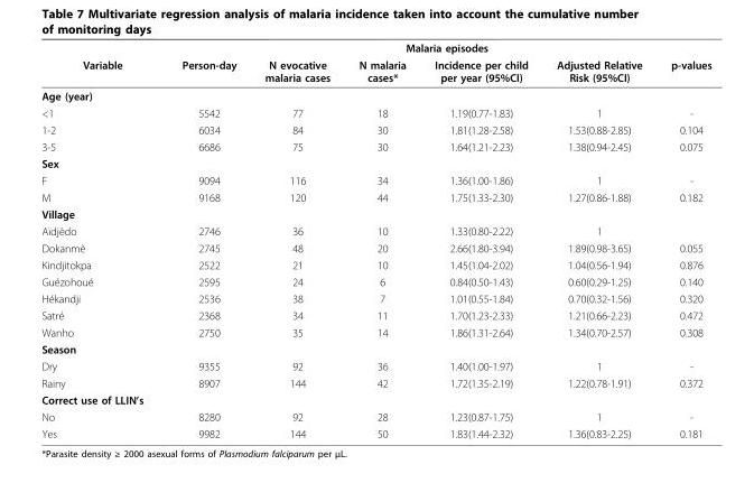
<table><thead><tr><td rowspan="2">Variable</td><td colspan="6">Malaria episodes</td></tr><tr><td>Person-day</td><td>N evocative malaria cases</td><td>N malaria cases*</td><td>Incidence per child per year (95%CI)</td><td>Adjusted Relative Risk (95%CI)</td><td>p-values</td></tr></thead><tbody><tr><td colspan="7">Age (year)</td></tr><tr><td>&lt;1</td><td>5542</td><td>77</td><td>18</td><td>1.19(0.77-1.83)</td><td>1</td><td>-</td></tr><tr><td>1-2</td><td>6034</td><td>84</td><td>30</td><td>1.81(1.28-2.58)</td><td>1.53(0.88-2.85)</td><td>0.104</td></tr><tr><td>3-5</td><td>6686</td><td>75</td><td>30</td><td>1.64(1.21-2.23)</td><td>1.38(0.94-2.45)</td><td>0.075</td></tr><tr><td colspan="7">Sex</td></tr><tr><td>F</td><td>9094</td><td>116</td><td>34</td><td>1.36(1.00-1.86)</td><td>1</td><td>-</td></tr><tr><td>M</td><td>9168</td><td>120</td><td>44</td><td>1.75(1.33-2.30)</td><td>1.27(0.86-1.88)</td><td>0.182</td></tr><tr><td colspan="7">Village</td></tr><tr><td>Aïdjèdo</td><td>2746</td><td>36</td><td>10</td><td>1.33(0.80-2.22)</td><td>1</td><td></td></tr><tr><td>Dokanmè</td><td>2745</td><td>48</td><td>20</td><td>2.66(1.80-3.94)</td><td>1.89(0.98-3.65)</td><td>0.055</td></tr><tr><td>Kindjitokpa</td><td>2522</td><td>21</td><td>10</td><td>1.45(1.04-2.02)</td><td>1.04(0.56-1.94)</td><td>0.876</td></tr><tr><td>Guézohoué</td><td>2595</td><td>24</td><td>6</td><td>0.84(0.50-1.43)</td><td>0.60(0.29-1.25)</td><td>0.140</td></tr><tr><td>Hékandji</td><td>2536</td><td>38</td><td>7</td><td>1.01(0.55-1.84)</td><td>0.70(0.32-1.56)</td><td>0.320</td></tr><tr><td>Satré</td><td>2368</td><td>34</td><td>11</td><td>1.70(1.23-2.33)</td><td>1.21(0.66-2.23)</td><td>0.472</td></tr><tr><td>Wanho</td><td>2750</td><td>35</td><td>14</td><td>1.86(1.31-2.64)</td><td>1.34(0.70-2.57)</td><td>0.308</td></tr><tr><td colspan="7">Season</td></tr><tr><td>Dry</td><td>9355</td><td>92</td><td>36</td><td>1.40(1.00-1.97)</td><td>1</td><td>-</td></tr><tr><td>Rainy</td><td>8907</td><td>144</td><td>42</td><td>1.72(1.35-2.19)</td><td>1.22(0.78-1.91)</td><td>0.372</td></tr><tr><td colspan="7">Correct use of LLIN’s</td></tr><tr><td>No</td><td>8280</td><td>92</td><td>28</td><td>1.23(0.87-1.75)</td><td>1</td><td>-</td></tr><tr><td>Yes</td><td>9982</td><td>144</td><td>50</td><td>1.83(1.44-2.32)</td><td>1.36(0.83-2.25)</td><td>0.181</td></tr></tbody></table>